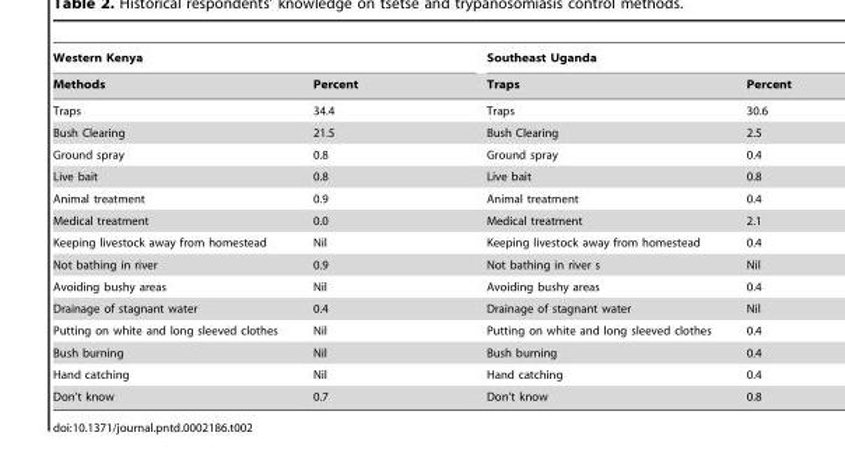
<table><thead><tr><td colspan="2">Western Kenya</td><td colspan="2">Southeast Uganda</td></tr><tr><td>Methods</td><td>Percent</td><td>Traps</td><td>Percent</td></tr></thead><tbody><tr><td>Traps</td><td>34.4</td><td>Traps</td><td>30.6</td></tr><tr><td>Bush Clearing</td><td>21.5</td><td>Bush Clearing</td><td>2.5</td></tr><tr><td>Ground spray</td><td>0.8</td><td>Ground spray</td><td>0.4</td></tr><tr><td>Live bait</td><td>0.8</td><td>Live bait</td><td>0.8</td></tr><tr><td>Animal treatment</td><td>0.9</td><td>Animal treatment</td><td>0.4</td></tr><tr><td>Medical treatment</td><td>0.0</td><td>Medical treatment</td><td>2.1</td></tr><tr><td>Keeping livestock away from homestead</td><td>Nil</td><td>Keeping livestock away from homestead</td><td>0.4</td></tr><tr><td>Not bathing in river</td><td>0.9</td><td>Not bathing in river s</td><td>Nil</td></tr><tr><td>Avoiding bushy areas</td><td>Nil</td><td>Avoiding bushy areas</td><td>0.4</td></tr><tr><td>Drainage of stagnant water</td><td>0.4</td><td>Drainage of stagnant water</td><td>Nil</td></tr><tr><td>Putting on white and long sleeved clothes</td><td>Nil</td><td>Putting on white and long sleeved clothes</td><td>0.4</td></tr><tr><td>Bush burning</td><td>Nil</td><td>Bush burning</td><td>0.4</td></tr><tr><td>Hand catching</td><td>Nil</td><td>Hand catching</td><td>0.4</td></tr><tr><td>Don’t know</td><td>0.7</td><td>Don’t know</td><td>0.8</td></tr></tbody></table>